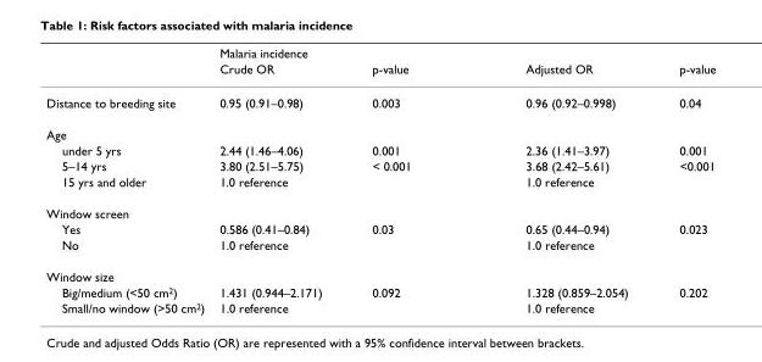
<table><thead><tr><td rowspan="2"></td><td rowspan="2">Malaria incidence Crude OR</td><td rowspan="2">p-value</td><td rowspan="2">Adjusted OR</td><td rowspan="2">p-value</td></tr><tr></tr></thead><tbody><tr><td>Distance to breeding site</td><td>0.95 (0.91–0.98)</td><td>0.003</td><td>0.96 (0.92–0.998)</td><td>0.04</td></tr><tr><td colspan="5">Age</td></tr><tr><td>under 5 yrs</td><td>2.44 (1.46–4.06)</td><td>0.001</td><td>2.36 (1.41–3.97)</td><td>0.001</td></tr><tr><td>5–14 yrs</td><td>3.80 (2.51–5.75)</td><td>&lt; 0.001</td><td>3.68 (2.42–5.61)</td><td>&lt;0.001</td></tr><tr><td>15 yrs and older</td><td>1.0 reference</td><td></td><td>1.0 reference</td><td></td></tr><tr><td colspan="5">Window screen</td></tr><tr><td>Yes</td><td>0.586 (0.41–0.84)</td><td>0.03</td><td>0.65 (0.44–0.94)</td><td>0.023</td></tr><tr><td>No</td><td>1.0 reference</td><td></td><td>1.0 reference</td><td></td></tr><tr><td colspan="5">Window size</td></tr><tr><td>Big/medium (&lt;50 cm<sup>2</sup>)</td><td>1.431 (0.944–2.171)</td><td>0.092</td><td>1.328 (0.859–2.054)</td><td>0.202</td></tr><tr><td>Small/no window (&gt;50 cm<sup>2</sup>)</td><td>1.0 reference</td><td></td><td>1.0 reference</td><td></td></tr></tbody></table>